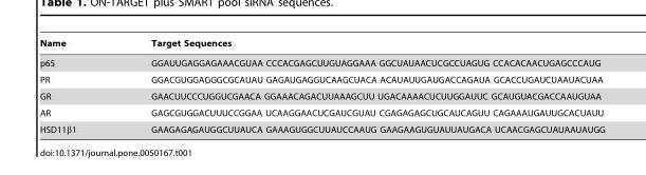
<table><thead><tr><td>Name</td><td>Target Sequences</td></tr></thead><tbody><tr><td>p65</td><td>GGAUUGAGGAGAAACGUAA CCCACGAGCUUGUAGGAAA GGCUAUAACUCGCCUAGUG CCACACAACUGAGCCCAUG</td></tr><tr><td>PR</td><td>GGACGUGGAGGGCGCAUAU GAGAUGAGGUCAAGCUACA ACAUAUUGAUGACCAGAUA GCACCUGAUCUAAUACUAA</td></tr><tr><td>GR</td><td>GAACUUCCCUGGUCGAACA GGAAACAGACUUAAAGCUU UGACAAAACUCUUGGAUUC GCAUGUACGACCAAUGUAA</td></tr><tr><td>AR</td><td>GAGCGUGGACUUUCCGGAA UCAAGGAACUCGAUCGUAU CGAGAGAGCUGCAUCAGUU CAGAAAUGAUUGCACUAUU</td></tr><tr><td>HSD11β1</td><td>GAAGAGAGAUGGCUUAUCA GAAAGUGGCUUAUCCAAUG GAAGAAGUGUAUUAUGACA UCAACGAGCUAUAAUAUGG</td></tr></tbody></table>